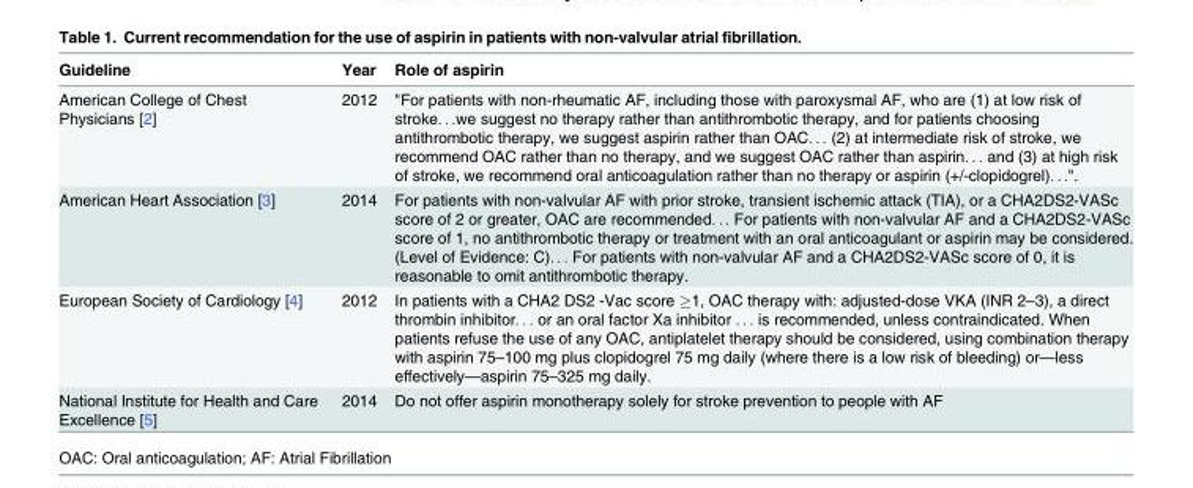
<table><thead><tr><td>Guideline</td><td>Year</td><td>Role of aspirin</td></tr></thead><tbody><tr><td>American College of Chest Physicians [2]</td><td>2012</td><td>&quot;For patients with non-rheumatic AF, including those with paroxysmal AF, who are (1) at low risk of stroke. . .we suggest no therapy rather than antithrombotic therapy, and for patients choosing antithrombotic therapy, we suggest aspirin rather than OAC. . . (2) at intermediate risk of stroke, we recommend OAC rather than no therapy, and we suggest OAC rather than aspirin. . . and (3) at high risk of stroke, we recommend oral anticoagulation rather than no therapy or aspirin (+/-clopidogrel). . .&quot;.</td></tr><tr><td>American Heart Association [3]</td><td>2014</td><td>For patients with non-valvular AF with prior stroke, transient ischemic attack (TIA), or a CHA2DS2-VASc score of 2 or greater, OAC are recommended. . . For patients with non-valvular AF and a CHA2DS2-VASc score of 1, no antithrombotic therapy or treatment with an oral anticoagulant or aspirin may be considered. (Level of Evidence: C). . . For patients with non-valvular AF and a CHA2DS2-VASc score of 0, it is reasonable to omit antithrombotic therapy.</td></tr><tr><td>European Society of Cardiology [4]</td><td>2012</td><td>In patients with a CHA2 DS2 -Vac score �1, OAC therapy with: adjusted-dose VKA (INR 2–3), a direct thrombin inhibitor. . . or an oral factor Xa inhibitor . . . is recommended, unless contraindicated. When patients refuse the use of any OAC, antiplatelet therapy should be considered, using combination therapy with aspirin 75–100 mg plus clopidogrel 75 mg daily (where there is a low risk of bleeding) or—less effectively—aspirin 75–325 mg daily.</td></tr><tr><td>National Institute for Health and Care Excellence [5]</td><td>2014</td><td>Do not offer aspirin monotherapy solely for stroke prevention to people with AF</td></tr></tbody></table>